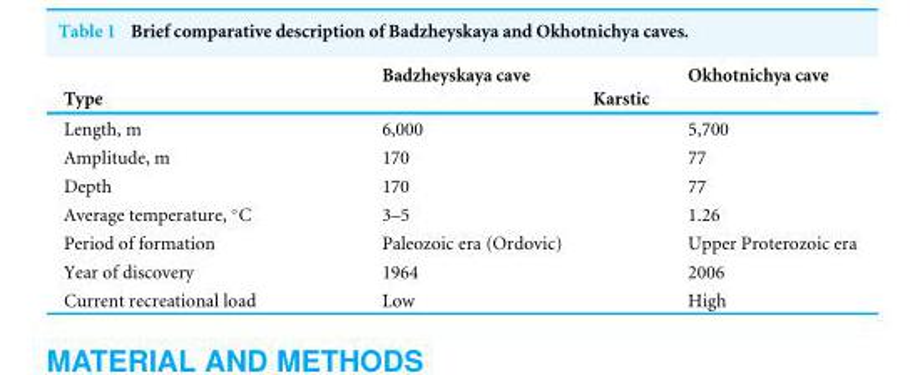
<table><thead><tr><td rowspan="2">Type</td><td>Badzheyskaya cave</td><td>Okhotnichya cave</td></tr><tr><td colspan="2">Karstic</td></tr></thead><tbody><tr><td>Length, m</td><td>6,000</td><td>5,700</td></tr><tr><td>Amplitude, m</td><td>170</td><td>77</td></tr><tr><td>Depth</td><td>170</td><td>77</td></tr><tr><td>Average temperature, ◦C</td><td>3–5</td><td>1.26</td></tr><tr><td>Period of formation</td><td>Paleozoic era (Ordovic)</td><td>Upper Proterozoic era</td></tr><tr><td>Year of discovery</td><td>1964</td><td>2006</td></tr><tr><td>Current recreational load</td><td>Low</td><td>High</td></tr></tbody></table>